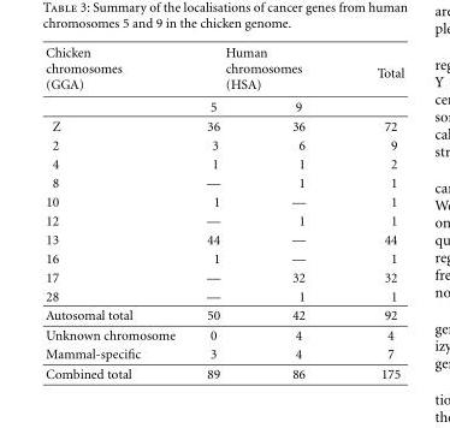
<table><tbody><tr><td rowspan="2">Chicken chromosomes (GGA)</td><td colspan="2">Human chromosomes (HSA)</td><td>Total</td></tr><tr><td>5</td><td>9</td><td></td></tr><tr><td>Z</td><td>36</td><td>36</td><td>72</td></tr><tr><td>2</td><td>3</td><td>6</td><td>9</td></tr><tr><td>4</td><td>1</td><td>1</td><td>2</td></tr><tr><td>8</td><td>—</td><td>1</td><td>1</td></tr><tr><td>10</td><td>1</td><td>—</td><td>1</td></tr><tr><td>12</td><td>—</td><td>1</td><td>1</td></tr><tr><td>13</td><td>44</td><td>—</td><td>44</td></tr><tr><td>16</td><td>1</td><td>—</td><td>1</td></tr><tr><td>17</td><td>—</td><td>32</td><td>32</td></tr><tr><td>28</td><td>—</td><td>1</td><td>1</td></tr><tr><td>Autosomal total</td><td>50</td><td>42</td><td>92</td></tr><tr><td>Unknown chromosome</td><td>0</td><td>4</td><td>4</td></tr><tr><td>Mammal-specific</td><td>3</td><td>4</td><td>7</td></tr><tr><td>Combined total</td><td>89</td><td>86</td><td>175</td></tr></tbody></table>